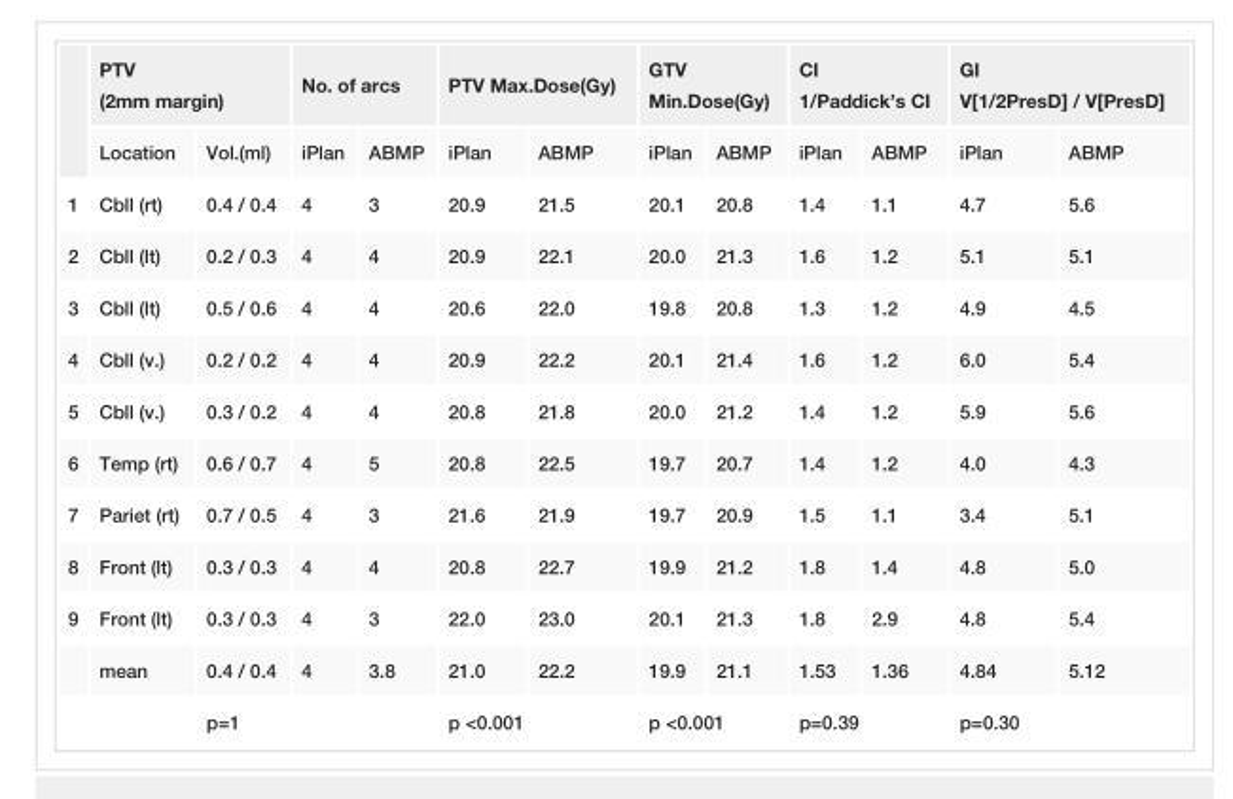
<table><thead><tr><td rowspan="2"></td><td colspan="2">PTV (2mm margin)</td><td colspan="2">No. of arcs</td><td colspan="2">PTV Max.Dose(Gy)</td><td colspan="2">GTV Min.Dose(Gy)</td><td colspan="2">CI 1/Paddick’s CI</td><td colspan="2">GI V[1/2PresD] / V[PresD]</td></tr><tr><td>Location</td><td>Vol.(ml)</td><td>iPlan</td><td>ABMP</td><td>iPlan</td><td>ABMP</td><td>iPlan</td><td>ABMP</td><td>iPlan</td><td>ABMP</td><td>iPlan</td><td>ABMP</td></tr></thead><tbody><tr><td>1</td><td>Cbll (rt)</td><td>0.4 / 0.4</td><td>4</td><td>3</td><td>20.9</td><td>21.5</td><td>20.1</td><td>20.8</td><td>1.4</td><td>1.1</td><td>4.7</td><td>5.6</td></tr><tr><td>2</td><td>Cbll (lt)</td><td>0.2 / 0.3</td><td>4</td><td>4</td><td>20.9</td><td>22.1</td><td>20.0</td><td>21.3</td><td>1.6</td><td>1.2</td><td>5.1</td><td>5.1</td></tr><tr><td>3</td><td>Cbll (lt)</td><td>0.5 / 0.6</td><td>4</td><td>4</td><td>20.6</td><td>22.0</td><td>19.8</td><td>20.8</td><td>1.3</td><td>1.2</td><td>4.9</td><td>4.5</td></tr><tr><td>4</td><td>Cbll (v.)</td><td>0.2 / 0.2</td><td>4</td><td>4</td><td>20.9</td><td>22.2</td><td>20.1</td><td>21.4</td><td>1.6</td><td>1.2</td><td>6.0</td><td>5.4</td></tr><tr><td>5</td><td>Cbll (v.)</td><td>0.3 / 0.2</td><td>4</td><td>4</td><td>20.8</td><td>21.8</td><td>20.0</td><td>21.2</td><td>1.4</td><td>1.2</td><td>5.9</td><td>5.6</td></tr><tr><td>6</td><td>Temp (rt)</td><td>0.6 / 0.7</td><td>4</td><td>5</td><td>20.8</td><td>22.5</td><td>19.7</td><td>20.7</td><td>1.4</td><td>1.2</td><td>4.0</td><td>4.3</td></tr><tr><td>7</td><td>Pariet (rt)</td><td>0.7 / 0.5</td><td>4</td><td>3</td><td>21.6</td><td>21.9</td><td>19.7</td><td>20.9</td><td>1.5</td><td>1.1</td><td>3.4</td><td>5.1</td></tr><tr><td>8</td><td>Front (lt)</td><td>0.3 / 0.3</td><td>4</td><td>4</td><td>20.8</td><td>22.7</td><td>19.9</td><td>21.2</td><td>1.8</td><td>1.4</td><td>4.8</td><td>5.0</td></tr><tr><td rowspan="3">9</td><td>Front (lt)</td><td>0.3 / 0.3</td><td>4</td><td>3</td><td>22.0</td><td>23.0</td><td>20.1</td><td>21.3</td><td>1.8</td><td>2.9</td><td>4.8</td><td>5.4</td></tr><tr><td>mean</td><td>0.4 / 0.4</td><td>4</td><td>3.8</td><td>21.0</td><td>22.2</td><td>19.9</td><td>21.1</td><td>1.53</td><td>1.36</td><td>4.84</td><td>5.12</td></tr><tr><td></td><td>p=1</td><td colspan="2"></td><td colspan="2">p &lt;0.001</td><td colspan="2">p &lt;0.001</td><td colspan="2">p=0.39</td><td colspan="2">p=0.30</td></tr></tbody></table>